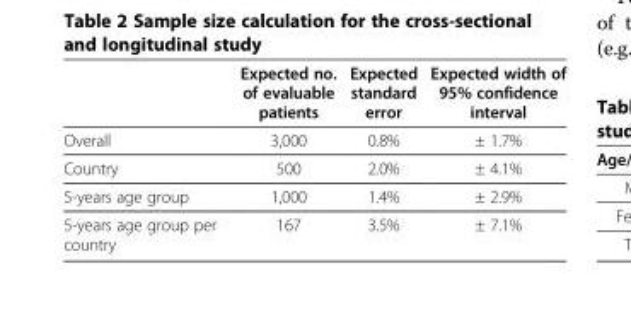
<table><thead><tr><td></td><td>Expected no. of evaluable patients</td><td>Expected standard error</td><td>Expected width of 95% confidence interval</td></tr></thead><tbody><tr><td>Overall</td><td>3,000</td><td>0.8%</td><td>± 1.7%</td></tr><tr><td>Country</td><td>500</td><td>2.0%</td><td>± 4.1%</td></tr><tr><td>5-years age group</td><td>1,000</td><td>1.4%</td><td>± 2.9%</td></tr><tr><td>5-years age group per country</td><td>167</td><td>3.5%</td><td>± 7.1%</td></tr></tbody></table>